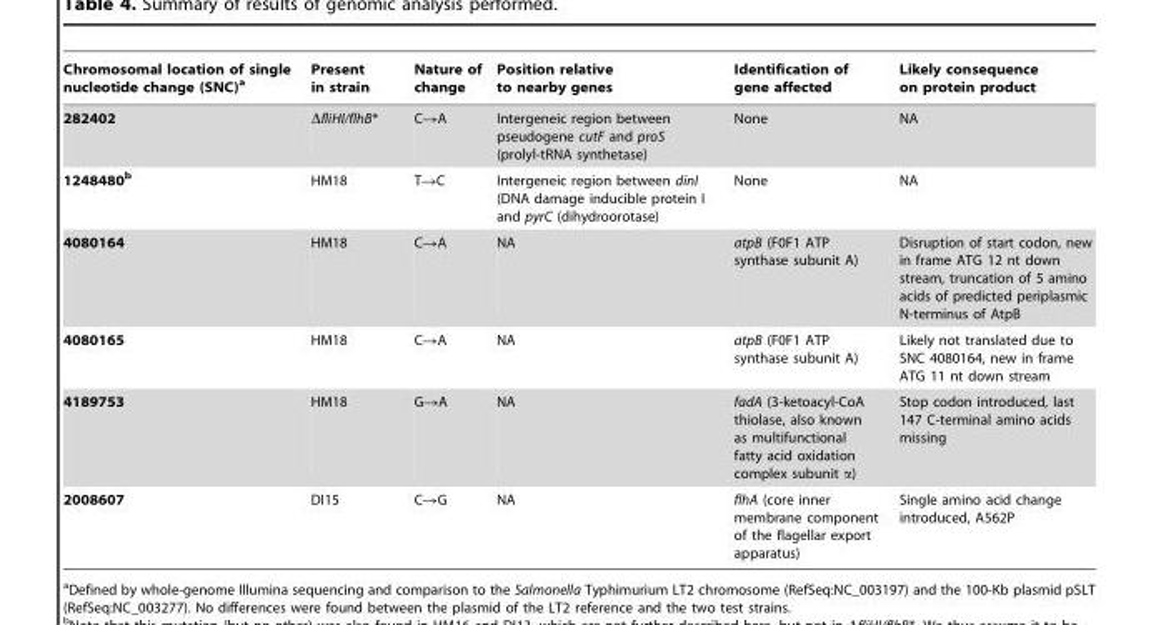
<table><thead><tr><td>Chromosomal location of single nucleotide change (SNC)<sup>a</sup></td><td>Present in strain</td><td>Nature of change</td><td>Position relative to nearby genes</td><td>Identification of gene affected</td><td>Likely consequence on protein product</td></tr></thead><tbody><tr><td>282402</td><td>ΔfliHI/flhB*</td><td>C→A</td><td>Intergeneic region between pseudogene cutF and proS (prolyl-tRNA synthetase)</td><td>None</td><td>NA</td></tr><tr><td>1248480b</td><td>HM18</td><td>T→C</td><td>Intergeneic region between dinI (DNA damage inducible protein I and pyrC (dihydroorotase)</td><td>None</td><td>NA</td></tr><tr><td>4080164</td><td>HM18</td><td>C→A</td><td>NA</td><td>atpB (F0F1 ATP synthase subunit A)</td><td>Disruption of start codon, new in frame ATG 12 nt down stream, truncation of 5 amino acids of predicted periplasmic N-terminus of AtpB</td></tr><tr><td>4080165</td><td>HM18</td><td>C→A</td><td>NA</td><td>atpB (F0F1 ATP synthase subunit A)</td><td>Likely not translated due to SNC 4080164, new in frame ATG 11 nt down stream</td></tr><tr><td>4189753</td><td>HM18</td><td>G→A</td><td>NA</td><td>fadA (3-ketoacyl-CoA thiolase, also known as multifunctional fatty acid oxidation complex subunit α)</td><td>Stop codon introduced, last 147 C-terminal amino acids missing</td></tr><tr><td>2008607</td><td>DI15</td><td>C→G</td><td>NA</td><td>flhA (core inner membrane component of the flagellar export apparatus)</td><td>Single amino acid change introduced, A562P</td></tr></tbody></table>